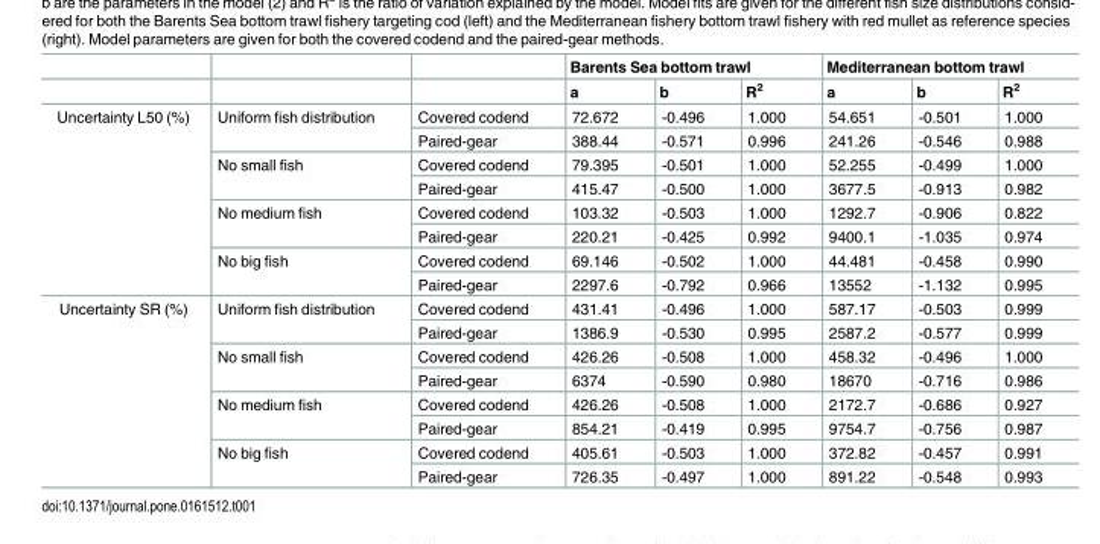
<table><thead><tr><td rowspan="2"></td><td rowspan="2"></td><td rowspan="2"></td><td colspan="3">Barents Sea bottom trawl</td><td colspan="3">Mediterranean bottom trawl</td></tr><tr><td>a</td><td>b</td><td>R<sup>2</sup></td><td>a</td><td>b</td><td>R<sup>2</sup></td></tr></thead><tbody><tr><td rowspan="8">Uncertainty L50 (%)</td><td rowspan="2">Uniform fish distribution</td><td>Covered codend</td><td>72.672</td><td>-0.496</td><td>1.000</td><td>54.651</td><td>-0.501</td><td>1.000</td></tr><tr><td>Paired-gear</td><td>388.44</td><td>-0.571</td><td>0.996</td><td>241.26</td><td>-0.546</td><td>0.988</td></tr><tr><td rowspan="2">No small fish</td><td>Covered codend</td><td>79.395</td><td>-0.501</td><td>1.000</td><td>52.255</td><td>-0.499</td><td>1.000</td></tr><tr><td>Paired-gear</td><td>415.47</td><td>-0.500</td><td>1.000</td><td>3677.5</td><td>-0.913</td><td>0.982</td></tr><tr><td rowspan="2">No medium fish</td><td>Covered codend</td><td>103.32</td><td>-0.503</td><td>1.000</td><td>1292.7</td><td>-0.906</td><td>0.822</td></tr><tr><td>Paired-gear</td><td>220.21</td><td>-0.425</td><td>0.992</td><td>9400.1</td><td>-1.035</td><td>0.974</td></tr><tr><td rowspan="2">No big fish</td><td>Covered codend</td><td>69.146</td><td>-0.502</td><td>1.000</td><td>44.481</td><td>-0.458</td><td>0.990</td></tr><tr><td>Paired-gear</td><td>2297.6</td><td>-0.792</td><td>0.966</td><td>13552</td><td>-1.132</td><td>0.995</td></tr><tr><td rowspan="8">Uncertainty SR (%)</td><td rowspan="2">Uniform fish distribution</td><td>Covered codend</td><td>431.41</td><td>-0.496</td><td>1.000</td><td>587.17</td><td>-0.503</td><td>0.999</td></tr><tr><td>Paired-gear</td><td>1386.9</td><td>-0.530</td><td>0.995</td><td>2587.2</td><td>-0.577</td><td>0.999</td></tr><tr><td rowspan="2">No small fish</td><td>Covered codend</td><td>426.26</td><td>-0.508</td><td>1.000</td><td>458.32</td><td>-0.496</td><td>1.000</td></tr><tr><td>Paired-gear</td><td>6374</td><td>-0.590</td><td>0.980</td><td>18670</td><td>-0.716</td><td>0.986</td></tr><tr><td rowspan="2">No medium fish</td><td>Covered codend</td><td>426.26</td><td>-0.508</td><td>1.000</td><td>2172.7</td><td>-0.686</td><td>0.927</td></tr><tr><td>Paired-gear</td><td>854.21</td><td>-0.419</td><td>0.995</td><td>9754.7</td><td>-0.756</td><td>0.987</td></tr><tr><td rowspan="2">No big fish</td><td>Covered codend</td><td>405.61</td><td>-0.503</td><td>1.000</td><td>372.82</td><td>-0.457</td><td>0.991</td></tr><tr><td>Paired-gear</td><td>726.35</td><td>-0.497</td><td>1.000</td><td>891.22</td><td>-0.548</td><td>0.993</td></tr></tbody></table>